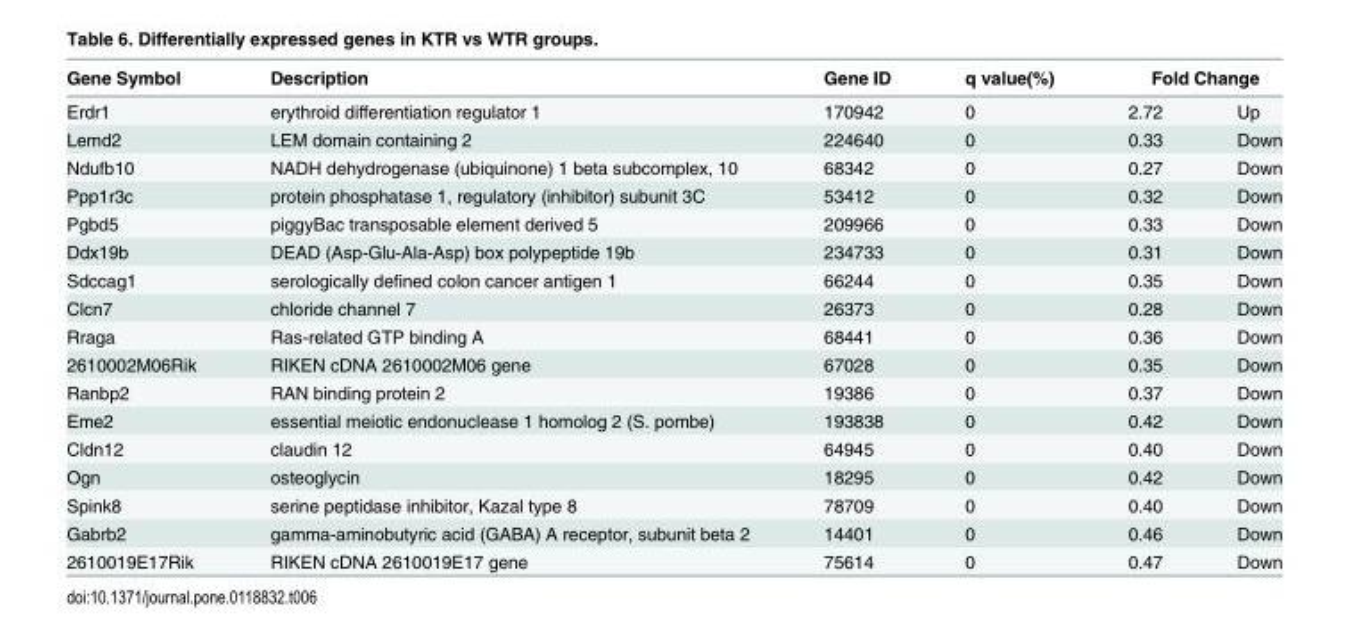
<table><thead><tr><td rowspan="2">Gene Symbol Erdr1</td><td rowspan="2">Description erythroid differentiation regulator 1</td><td rowspan="2">Gene ID 170942</td><td rowspan="2">q value(%) 0</td><td colspan="2">Fold Change</td></tr><tr><td>2.72</td><td>Up</td></tr></thead><tbody><tr><td>Lemd2</td><td>LEM domain containing 2</td><td>224640</td><td>0</td><td>0.33</td><td>Down</td></tr><tr><td>Ndufb10</td><td>NADH dehydrogenase (ubiquinone) 1 beta subcomplex, 10</td><td>68342</td><td>0</td><td>0.27</td><td>Down</td></tr><tr><td>Ppp1r3c</td><td>protein phosphatase 1, regulatory (inhibitor) subunit 3C</td><td>53412</td><td>0</td><td>0.32</td><td>Down</td></tr><tr><td>Pgbd5</td><td>piggyBac transposable element derived 5</td><td>209966</td><td>0</td><td>0.33</td><td>Down</td></tr><tr><td>Ddx19b</td><td>DEAD (Asp-Glu-Ala-Asp) box polypeptide 19b</td><td>234733</td><td>0</td><td>0.31</td><td>Down</td></tr><tr><td>Sdccag1</td><td>serologically defined colon cancer antigen 1</td><td>66244</td><td>0</td><td>0.35</td><td>Down</td></tr><tr><td>Clcn7</td><td>chloride channel 7</td><td>26373</td><td>0</td><td>0.28</td><td>Down</td></tr><tr><td>Rraga</td><td>Ras-related GTP binding A</td><td>68441</td><td>0</td><td>0.36</td><td>Down</td></tr><tr><td>2610002M06Rik</td><td>RIKEN cDNA 2610002M06 gene</td><td>67028</td><td>0</td><td>0.35</td><td>Down</td></tr><tr><td>Ranbp2</td><td>RAN binding protein 2</td><td>19386</td><td>0</td><td>0.37</td><td>Down</td></tr><tr><td>Eme2</td><td>essential meiotic endonuclease 1 homolog 2 (S. pombe)</td><td>193838</td><td>0</td><td>0.42</td><td>Down</td></tr><tr><td>Cldn12</td><td>claudin 12</td><td>64945</td><td>0</td><td>0.40</td><td>Down</td></tr><tr><td>Ogn</td><td>osteoglycin</td><td>18295</td><td>0</td><td>0.42</td><td>Down</td></tr><tr><td>Spink8</td><td>serine peptidase inhibitor, Kazal type 8</td><td>78709</td><td>0</td><td>0.40</td><td>Down</td></tr><tr><td>Gabrb2</td><td>gamma-aminobutyric acid (GABA) A receptor, subunit beta 2</td><td>14401</td><td>0</td><td>0.46</td><td>Down</td></tr><tr><td>2610019E17Rik</td><td>RIKEN cDNA 2610019E17 gene</td><td>75614</td><td>0</td><td>0.47</td><td>Down</td></tr></tbody></table>